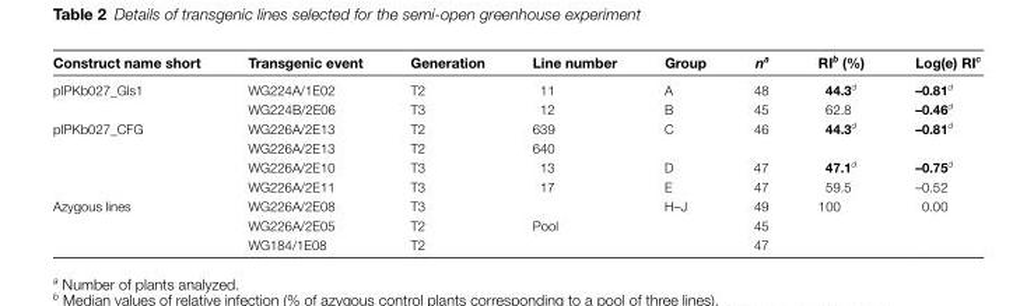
<table><thead><tr><td>Construct name short</td><td>Transgenic event</td><td>Generation</td><td>Line number</td><td>Group</td><td>n<sup>a</sup></td><td>RI<sup>b</sup> (%)</td><td>Log(e) RI<sup>c</sup></td></tr></thead><tbody><tr><td rowspan="2">pIPKb027_Gls1</td><td>WG224A/1E02</td><td>T2</td><td>11</td><td>A</td><td>48</td><td>44.3<sup>d</sup></td><td>–0.81<sup>d</sup></td></tr><tr><td>WG224B/2E06</td><td>T3</td><td>12</td><td>B</td><td>45</td><td>62.8</td><td>–0.46<sup>d</sup></td></tr><tr><td rowspan="4">pIPKb027_CFG</td><td>WG226A/2E13</td><td>T2</td><td>639</td><td rowspan="2">C</td><td rowspan="2">46</td><td rowspan="2">44.3<sup>d</sup></td><td rowspan="2">–0.81<sup>d</sup></td></tr><tr><td>WG226A/2E13</td><td>T2</td><td>640</td></tr><tr><td>WG226A/2E10</td><td>T3</td><td>13</td><td>D</td><td>47</td><td>47.1<sup>d</sup></td><td>–0.75<sup>d</sup></td></tr><tr><td>WG226A/2E11</td><td>T3</td><td>17</td><td>E</td><td>47</td><td>59.5</td><td>–0.52</td></tr><tr><td rowspan="3">Azygous lines</td><td>WG226A/2E08</td><td>T3</td><td></td><td rowspan="3">H–J</td><td>49</td><td rowspan="3">100</td><td rowspan="3">0.00</td></tr><tr><td>WG226A/2E05</td><td>T2</td><td>Pool</td><td>45</td></tr><tr><td>WG184/1E08</td><td>T2</td><td></td><td>47</td></tr></tbody></table>